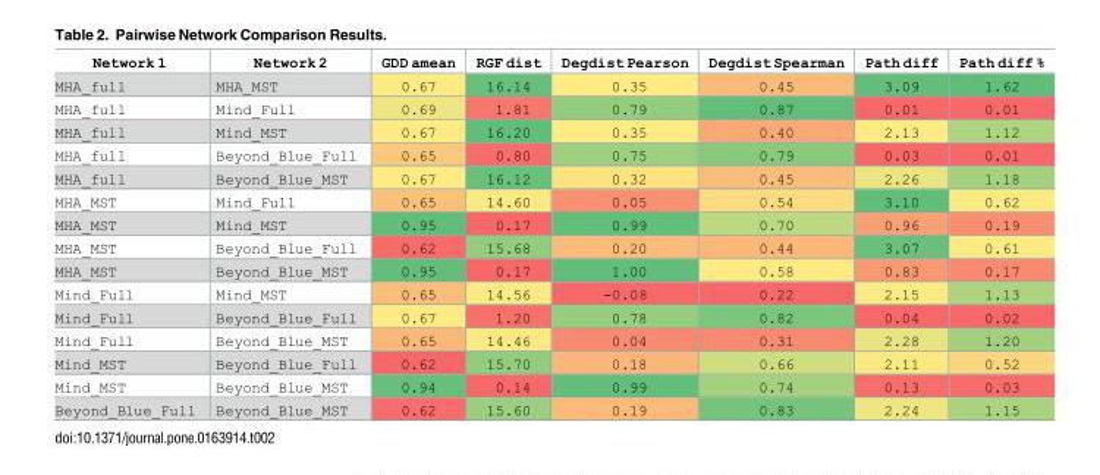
<table><thead><tr><td>Network 1</td><td>Network 2</td><td>GDD amean</td><td>RGF dist</td><td>Degdist Pearson</td><td>Degdist Spearman</td><td>Path diff</td><td>Path diff %</td></tr></thead><tbody><tr><td>MHA_full</td><td>MHA_MST</td><td>0.67</td><td>16.14</td><td>0.35</td><td>0.45</td><td>3.09</td><td>1.62</td></tr><tr><td>MHA_full</td><td>Mind_Full</td><td>0.69</td><td>1.81</td><td>0.79</td><td>0.87</td><td>0.01</td><td>0.01</td></tr><tr><td>MHA_full</td><td>Mind_MST</td><td>0.67</td><td>16.20</td><td>0.35</td><td>0.40</td><td>2.13</td><td>1.12</td></tr><tr><td>MHA_full</td><td>Beyond_Blue_Full</td><td>0.65</td><td>0.80</td><td>0.75</td><td>0.79</td><td>0.03</td><td>0.01</td></tr><tr><td>MHA_full</td><td>Beyond_Blue_MST</td><td>0.67</td><td>16.12</td><td>0.32</td><td>0.45</td><td>2.26</td><td>1.18</td></tr><tr><td>MHA_MST</td><td>Mind_Full</td><td>0.65</td><td>14.60</td><td>0.05</td><td>0.54</td><td>3.10</td><td>0.62</td></tr><tr><td>MHA_MST</td><td>Mind_MST</td><td>0.95</td><td>0.17</td><td>0.99</td><td>0.70</td><td>0.96</td><td>0.19</td></tr><tr><td>MHA_MST</td><td>Beyond_Blue_Full</td><td>0.62</td><td>15.68</td><td>0.20</td><td>0.44</td><td>3.07</td><td>0.61</td></tr><tr><td>MHA_MST</td><td>Beyond_Blue_MST</td><td>0.95</td><td>0.17</td><td>1.00</td><td>0.58</td><td>0.83</td><td>0.17</td></tr><tr><td>Mind_Full</td><td>Mind_MST</td><td>0.65</td><td>14.56</td><td>-0.08</td><td>0.22</td><td>2.15</td><td>1.13</td></tr><tr><td>Mind_Full</td><td>Beyond_Blue_Full</td><td>0.67</td><td>1.20</td><td>0.78</td><td>0.82</td><td>0.04</td><td>0.02</td></tr><tr><td>Mind_Full</td><td>Beyond_Blue_MST</td><td>0.65</td><td>14.46</td><td>0.04</td><td>0.31</td><td>2.28</td><td>1.20</td></tr><tr><td>Mind_MST</td><td>Beyond_Blue_Full</td><td>0.62</td><td>15.70</td><td>0.18</td><td>0.66</td><td>2.11</td><td>0.52</td></tr><tr><td>Mind_MST</td><td>Beyond_Blue_MST</td><td>0.94</td><td>0.14</td><td>0.99</td><td>0.74</td><td>0.13</td><td>0.03</td></tr><tr><td>Beyond_Blue_Full</td><td>Beyond_Blue_MST</td><td>0.62</td><td>15.60</td><td>0.19</td><td>0.83</td><td>2.24</td><td>1.15</td></tr></tbody></table>